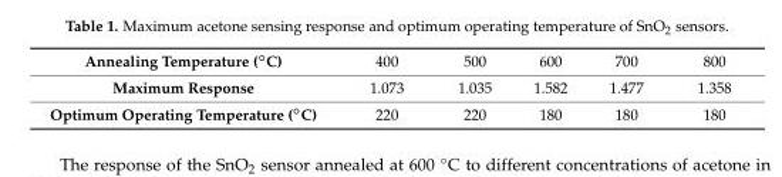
<table><tbody><tr><td>Annealing Temperature (◦C)</td><td>400</td><td>500</td><td>600</td><td>700</td><td>800</td></tr><tr><td>Maximum Response</td><td>1.073</td><td>1.035</td><td>1.582</td><td>1.477</td><td>1.358</td></tr><tr><td>Optimum Operating Temperature (◦C)</td><td>220</td><td>220</td><td>180</td><td>180</td><td>180</td></tr></tbody></table>